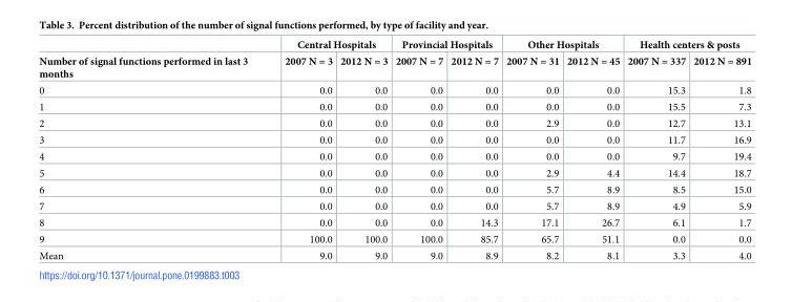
<table><thead><tr><td rowspan="2">Number of signal functions performed in last 3 months</td><td colspan="2">Central Hospitals</td><td colspan="2">Provincial Hospitals</td><td colspan="2">Other Hospitals</td><td colspan="2">Health centers &amp; posts</td></tr><tr><td>2007 N = 3</td><td>2012 N = 3</td><td>2007 N = 7</td><td>2012 N = 7</td><td>2007 N = 31</td><td>2012 N = 45</td><td>2007 N = 337</td><td>2012 N = 891</td></tr></thead><tbody><tr><td>0</td><td>0.0</td><td>0.0</td><td>0.0</td><td>0.0</td><td>0.0</td><td>0.0</td><td>15.3</td><td>1.8</td></tr><tr><td>1</td><td>0.0</td><td>0.0</td><td>0.0</td><td>0.0</td><td>0.0</td><td>0.0</td><td>15.5</td><td>7.3</td></tr><tr><td>2</td><td>0.0</td><td>0.0</td><td>0.0</td><td>0.0</td><td>2.9</td><td>0.0</td><td>12.7</td><td>13.1</td></tr><tr><td>3</td><td>0.0</td><td>0.0</td><td>0.0</td><td>0.0</td><td>0.0</td><td>0.0</td><td>11.7</td><td>16.9</td></tr><tr><td>4</td><td>0.0</td><td>0.0</td><td>0.0</td><td>0.0</td><td>0.0</td><td>0.0</td><td>9.7</td><td>19.4</td></tr><tr><td>5</td><td>0.0</td><td>0.0</td><td>0.0</td><td>0.0</td><td>2.9</td><td>4.4</td><td>14.4</td><td>18.7</td></tr><tr><td>6</td><td>0.0</td><td>0.0</td><td>0.0</td><td>0.0</td><td>5.7</td><td>8.9</td><td>8.5</td><td>15.0</td></tr><tr><td>7</td><td>0.0</td><td>0.0</td><td>0.0</td><td>0.0</td><td>5.7</td><td>8.9</td><td>4.9</td><td>5.9</td></tr><tr><td>8</td><td>0.0</td><td>0.0</td><td>0.0</td><td>14.3</td><td>17.1</td><td>26.7</td><td>6.1</td><td>1.7</td></tr><tr><td>9</td><td>100.0</td><td>100.0</td><td>100.0</td><td>85.7</td><td>65.7</td><td>51.1</td><td>0.0</td><td>0.0</td></tr><tr><td>Mean</td><td>9.0</td><td>9.0</td><td>9.0</td><td>8.9</td><td>8.2</td><td>8.1</td><td>3.3</td><td>4.0</td></tr></tbody></table>